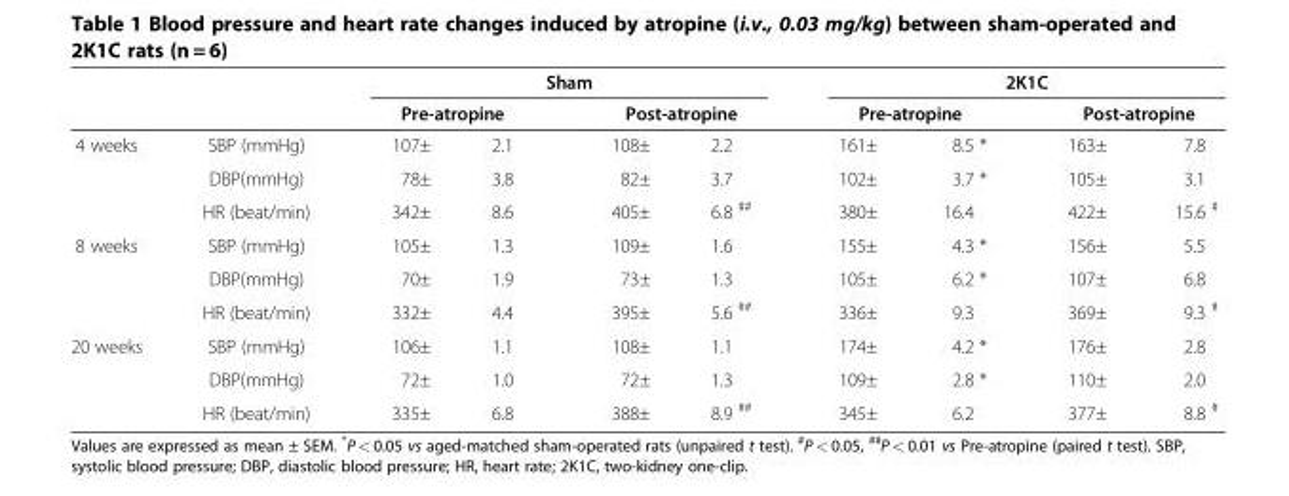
<table><thead><tr><td rowspan="3">4 weeks</td><td rowspan="3">SBP (mmHg)</td><td colspan="4">Sham</td><td colspan="4">2K1C</td></tr><tr><td colspan="2">Pre-atropine</td><td colspan="2">Post-atropine</td><td colspan="2">Pre-atropine</td><td colspan="2">Post-atropine</td></tr><tr><td>107±</td><td>2.1</td><td>108±</td><td>2.2</td><td>161±</td><td>8.5 *</td><td>163±</td><td>7.8</td></tr></thead><tbody><tr><td></td><td>DBP(mmHg)</td><td>78±</td><td>3.8</td><td>82±</td><td>3.7</td><td>102±</td><td>3.7 *</td><td>105±</td><td>3.1</td></tr><tr><td></td><td>HR (beat/min)</td><td>342±</td><td>8.6</td><td>405±</td><td>6.8 <sup>##</sup></td><td>380±</td><td>16.4</td><td>422±</td><td>15.6 <sup>#</sup></td></tr><tr><td rowspan="3">8 weeks</td><td>SBP (mmHg)</td><td>105±</td><td>1.3</td><td>109±</td><td>1.6</td><td>155±</td><td>4.3 *</td><td>156±</td><td>5.5</td></tr><tr><td>DBP(mmHg)</td><td>70±</td><td>1.9</td><td>73±</td><td>1.3</td><td>105±</td><td>6.2 *</td><td>107±</td><td>6.8</td></tr><tr><td>HR (beat/min)</td><td>332±</td><td>4.4</td><td>395±</td><td>5.6 <sup>##</sup></td><td>336±</td><td>9.3</td><td>369±</td><td>9.3 <sup>#</sup></td></tr><tr><td rowspan="3">20 weeks</td><td>SBP (mmHg)</td><td>106±</td><td>1.1</td><td>108±</td><td>1.1</td><td>174±</td><td>4.2 *</td><td>176±</td><td>2.8</td></tr><tr><td>DBP(mmHg)</td><td>72±</td><td>1.0</td><td>72±</td><td>1.3</td><td>109±</td><td>2.8 *</td><td>110±</td><td>2.0</td></tr><tr><td>HR (beat/min)</td><td>335±</td><td>6.8</td><td>388±</td><td>8.9 <sup>##</sup></td><td>345±</td><td>6.2</td><td>377±</td><td>8.8 <sup>#</sup></td></tr></tbody></table>